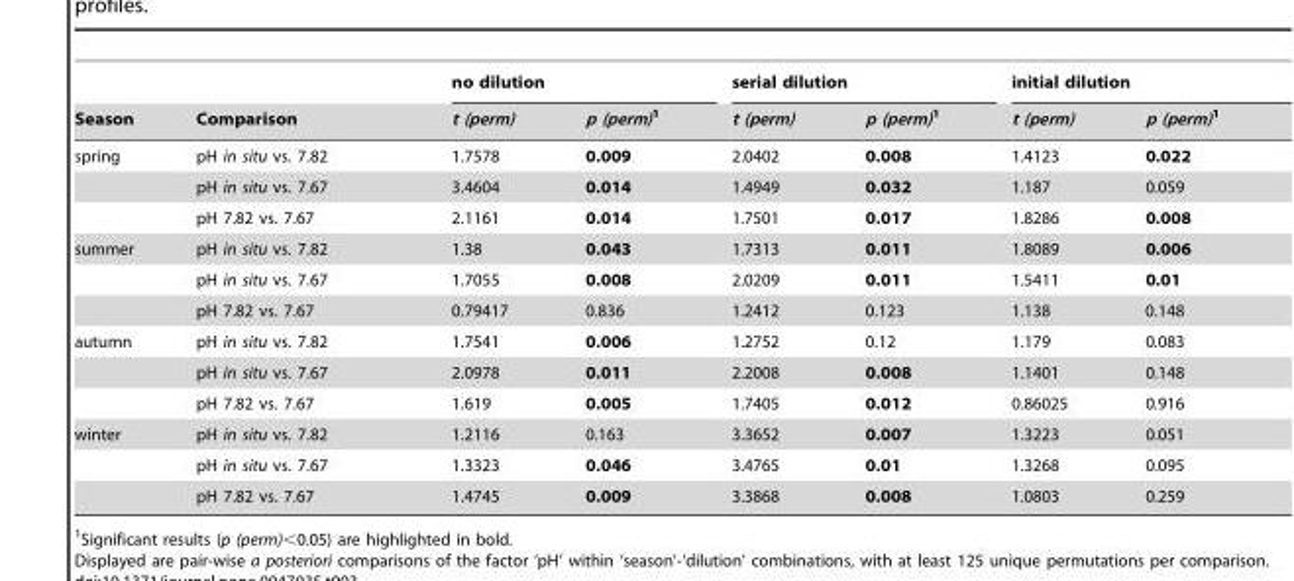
<table><thead><tr><td rowspan="2">Season</td><td rowspan="2">Comparison</td><td colspan="2">no dilution</td><td colspan="2">serial dilution</td><td colspan="2">initial dilution</td></tr><tr><td>t (perm)</td><td>p (perm)1</td><td>t (perm)</td><td>p (perm)1</td><td>t (perm)</td><td>p (perm)1</td></tr></thead><tbody><tr><td rowspan="3">spring</td><td>pH in situ vs. 7.82</td><td>1.7578</td><td>0.009</td><td>2.0402</td><td>0.008</td><td>1.4123</td><td>0.022</td></tr><tr><td>pH in situ vs. 7.67</td><td>3.4604</td><td>0.014</td><td>1.4949</td><td>0.032</td><td>1.187</td><td>0.059</td></tr><tr><td>pH 7.82 vs. 7.67</td><td>2.1161</td><td>0.014</td><td>1.7501</td><td>0.017</td><td>1.8286</td><td>0.008</td></tr><tr><td rowspan="3">summer</td><td>pH in situ vs. 7.82</td><td>1.38</td><td>0.043</td><td>1.7313</td><td>0.011</td><td>1.8089</td><td>0.006</td></tr><tr><td>pH in situ vs. 7.67</td><td>1.7055</td><td>0.008</td><td>2.0209</td><td>0.011</td><td>1.5411</td><td>0.01</td></tr><tr><td>pH 7.82 vs. 7.67</td><td>0.79417</td><td>0.836</td><td>1.2412</td><td>0.123</td><td>1.138</td><td>0.148</td></tr><tr><td rowspan="3">autumn</td><td>pH in situ vs. 7.82</td><td>1.7541</td><td>0.006</td><td>1.2752</td><td>0.12</td><td>1.179</td><td>0.083</td></tr><tr><td>pH in situ vs. 7.67</td><td>2.0978</td><td>0.011</td><td>2.2008</td><td>0.008</td><td>1.1401</td><td>0.148</td></tr><tr><td>pH 7.82 vs. 7.67</td><td>1.619</td><td>0.005</td><td>1.7405</td><td>0.012</td><td>0.86025</td><td>0.916</td></tr><tr><td rowspan="3">winter</td><td>pH in situ vs. 7.82</td><td>1.2116</td><td>0.163</td><td>3.3652</td><td>0.007</td><td>1.3223</td><td>0.051</td></tr><tr><td>pH in situ vs. 7.67</td><td>1.3323</td><td>0.046</td><td>3.4765</td><td>0.01</td><td>1.3268</td><td>0.095</td></tr><tr><td>pH 7.82 vs. 7.67</td><td>1.4745</td><td>0.009</td><td>3.3868</td><td>0.008</td><td>1.0803</td><td>0.259</td></tr></tbody></table>